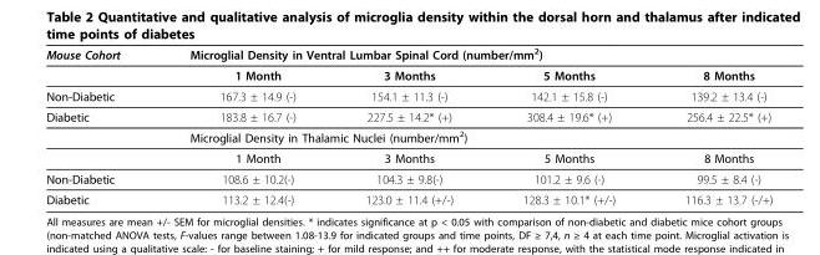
<table><thead><tr><td rowspan="2">Mouse Cohort</td><td colspan="4">Microglial Density in Ventral Lumbar Spinal Cord (number/mm<sup>2</sup>)</td></tr><tr><td>1 Month</td><td>3 Months</td><td>5 Months</td><td>8 Months</td></tr></thead><tbody><tr><td>Non-Diabetic</td><td>167.3 ± 14.9 (-)</td><td>154.1 ± 11.3 (-)</td><td>142.1 ± 15.8 (-)</td><td>139.2 ± 13.4 (-)</td></tr><tr><td rowspan="3">Diabetic</td><td>183.8 ± 16.7 (-)</td><td>227.5 ± 14.2* (+)</td><td>308.4 ± 19.6* (+)</td><td>256.4 ± 22.5* (+)</td></tr><tr><td colspan="4">Microglial Density in Thalamic Nuclei (number/mm<sup>2</sup>)</td></tr><tr><td>1 Month</td><td>3 Months</td><td>5 Months</td><td>8 Months</td></tr><tr><td>Non-Diabetic</td><td>108.6 ± 10.2(-)</td><td>104.3 ± 9.8(-)</td><td>101.2 ± 9.6 (-)</td><td>99.5 ± 8.4 (-)</td></tr><tr><td>Diabetic</td><td>113.2 ± 12.4(-)</td><td>123.0 ± 11.4 (+/-)</td><td>128.3 ± 10.1* (+/-)</td><td>116.3 ± 13.7 (-/+)</td></tr></tbody></table>